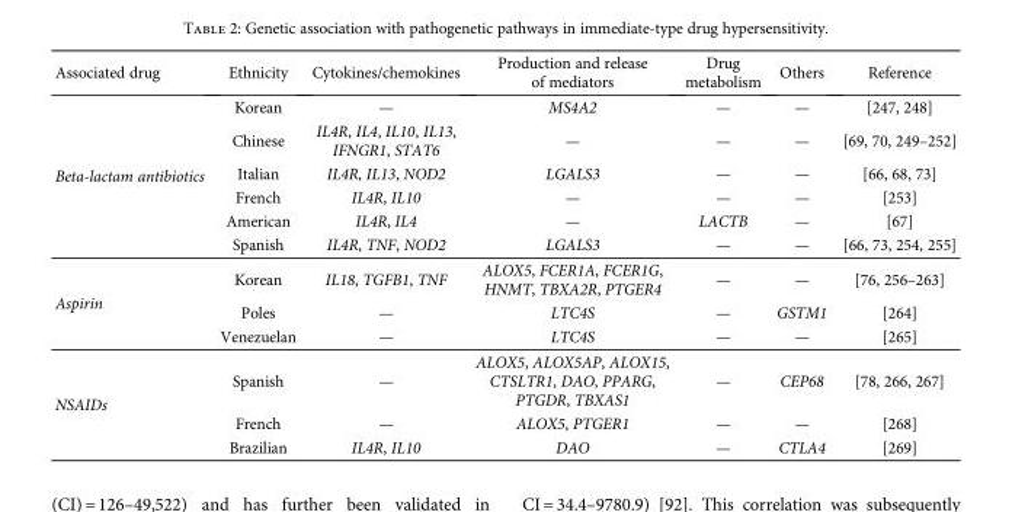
<table><thead><tr><td>Associated drug</td><td>Ethnicity</td><td>Cytokines/chemokines</td><td>Production and release of mediators</td><td>Drug metabolism</td><td>Others</td><td>Reference</td></tr></thead><tbody><tr><td rowspan="6">Beta-lactam antibiotics</td><td>Korean</td><td>—</td><td>MS4A2</td><td>—</td><td>—</td><td>[247, 248]</td></tr><tr><td>Chinese</td><td>IL4R, IL4, IL10, IL13, IFNGR1, STAT6</td><td>—</td><td>—</td><td>—</td><td>[69, 70, 249–252]</td></tr><tr><td>Italian</td><td>IL4R, IL13, NOD2</td><td>LGALS3</td><td>—</td><td>—</td><td>[66, 68, 73]</td></tr><tr><td>French</td><td>IL4R, IL10</td><td>—</td><td>—</td><td>—</td><td>[253]</td></tr><tr><td>American</td><td>IL4R, IL4</td><td>—</td><td>LACTB</td><td>—</td><td>[67]</td></tr><tr><td>Spanish</td><td>IL4R, TNF, NOD2</td><td>LGALS3</td><td>—</td><td>—</td><td>[66, 73, 254, 255]</td></tr><tr><td rowspan="3">Aspirin</td><td>Korean</td><td>IL18, TGFB1, TNF</td><td>ALOX5, FCER1A, FCER1G, HNMT, TBXA2R, PTGER4</td><td>—</td><td>—</td><td>[76, 256–263]</td></tr><tr><td>Poles</td><td>—</td><td>LTC4S</td><td>—</td><td>GSTM1</td><td>[264]</td></tr><tr><td>Venezuelan</td><td>—</td><td>LTC4S</td><td>—</td><td>—</td><td>[265]</td></tr><tr><td rowspan="3">NSAIDs</td><td>Spanish</td><td>—</td><td>ALOX5, ALOX5AP, ALOX15, CTSLTR1, DAO, PPARG, PTGDR, TBXAS1</td><td>—</td><td>CEP68</td><td>[78, 266, 267]</td></tr><tr><td>French</td><td>—</td><td>ALOX5, PTGER1</td><td>—</td><td>—</td><td>[268]</td></tr><tr><td>Brazilian</td><td>IL4R, IL10</td><td>DAO</td><td>—</td><td>CTLA4</td><td>[269]</td></tr></tbody></table>